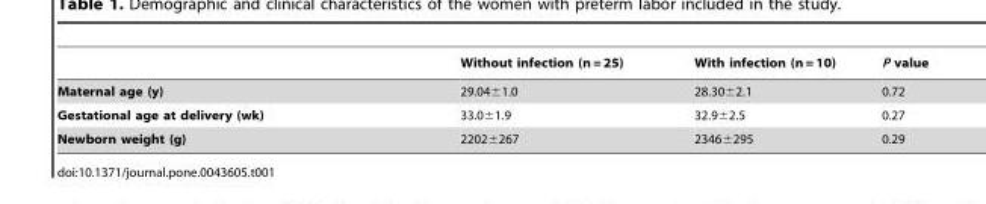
<table><thead><tr><td></td><td>Without infection (n = 25)</td><td>With infection (n = 10)</td><td>P value</td></tr></thead><tbody><tr><td>Maternal age (y)</td><td>29.04±1.0</td><td>28.30±2.1</td><td>0.72</td></tr><tr><td>Gestational age at delivery (wk)</td><td>33.0±1.9</td><td>32.9±2.5</td><td>0.27</td></tr><tr><td>Newborn weight (g)</td><td>2202±267</td><td>2346±295</td><td>0.29</td></tr></tbody></table>